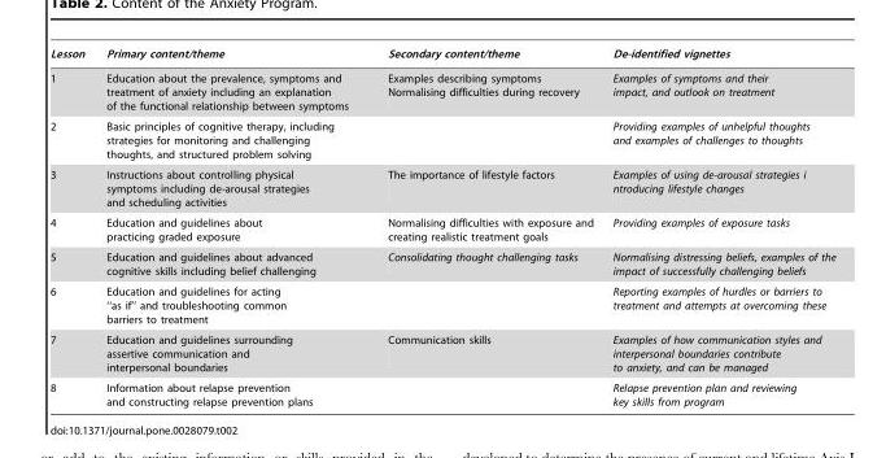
<table><thead><tr><td>Lesson</td><td>Primary content/theme</td><td>Secondary content/theme</td><td>De-identified vignettes</td></tr></thead><tbody><tr><td>1</td><td>Education about the prevalence, symptoms and treatment of anxiety including an explanation of the functional relationship between symptoms</td><td>Examples describing symptoms Normalising difficulties during recovery</td><td>Examples of symptoms and their impact, and outlook on treatment</td></tr><tr><td>2</td><td>Basic principles of cognitive therapy, including strategies for monitoring and challenging thoughts, and structured problem solving</td><td></td><td>Providing examples of unhelpful thoughts and examples of challenges to thoughts</td></tr><tr><td>3</td><td>Instructions about controlling physical symptoms including de-arousal strategies and scheduling activities</td><td>The importance of lifestyle factors</td><td>Examples of using de-arousal strategies i ntroducing lifestyle changes</td></tr><tr><td>4</td><td>Education and guidelines about practicing graded exposure</td><td>Normalising difficulties with exposure and creating realistic treatment goals</td><td>Providing examples of exposure tasks</td></tr><tr><td>5</td><td>Education and guidelines about advanced cognitive skills including belief challenging</td><td>Consolidating thought challenging tasks</td><td>Normalising distressing beliefs, examples of the impact of successfully challenging beliefs</td></tr><tr><td>6</td><td>Education and guidelines for acting ‘‘as if’’ and troubleshooting common barriers to treatment</td><td></td><td>Reporting examples of hurdles or barriers to treatment and attempts at overcoming these</td></tr><tr><td>7</td><td>Education and guidelines surrounding assertive communication and interpersonal boundaries</td><td>Communication skills</td><td>Examples of how communication styles and interpersonal boundaries contribute to anxiety, and can be managed</td></tr><tr><td>8</td><td>Information about relapse prevention and constructing relapse prevention plans</td><td></td><td>Relapse prevention plan and reviewing key skills from program</td></tr></tbody></table>